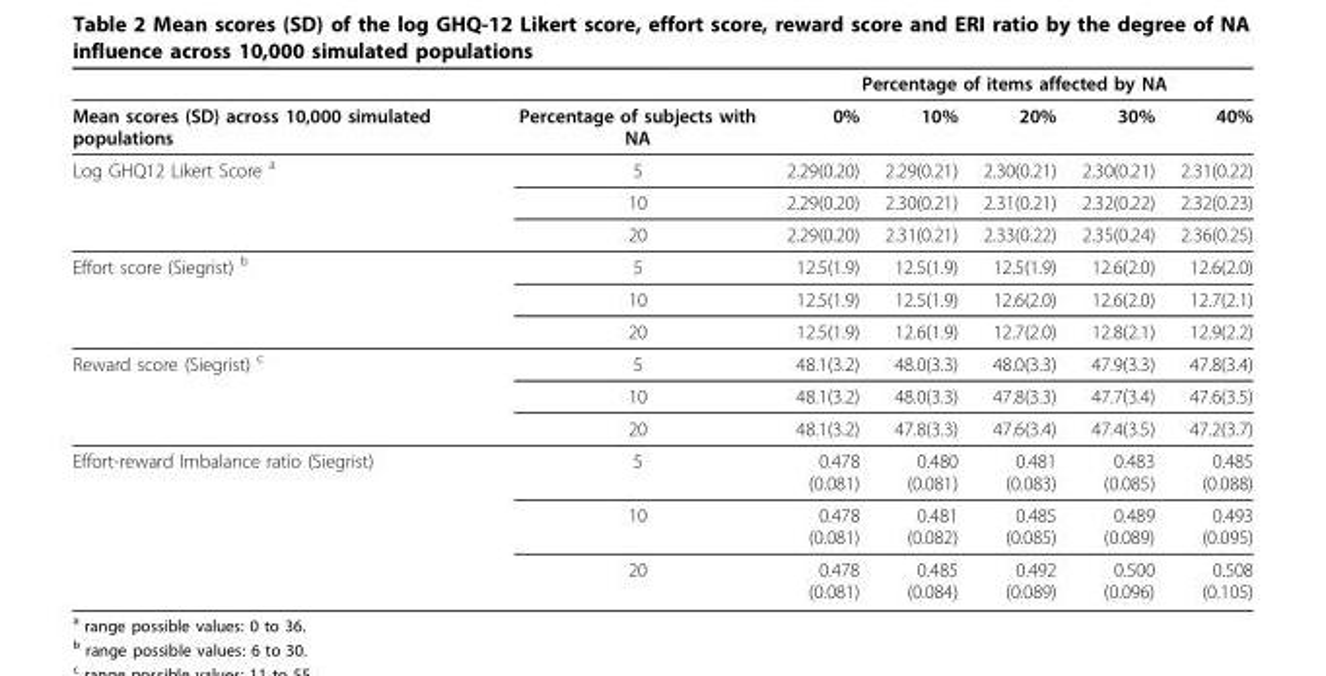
<table><thead><tr><td rowspan="2">Mean scores (SD) across 10,000 simulated populations</td><td rowspan="2">Percentage of subjects with NA</td><td colspan="5">Percentage of items affected by NA</td></tr><tr><td>0%</td><td>10%</td><td>20%</td><td>30%</td><td>40%</td></tr></thead><tbody><tr><td rowspan="3">Log GHQ12 Likert Score <sup>a</sup></td><td>5</td><td>2.29(0.20)</td><td>2.29(0.21)</td><td>2.30(0.21)</td><td>2.30(0.21)</td><td>2.31(0.22)</td></tr><tr><td>10</td><td>2.29(0.20)</td><td>2.30(0.21)</td><td>2.31(0.21)</td><td>2.32(0.22)</td><td>2.32(0.23)</td></tr><tr><td>20</td><td>2.29(0.20)</td><td>2.31(0.21)</td><td>2.33(0.22)</td><td>2.35(0.24)</td><td>2.36(0.25)</td></tr><tr><td rowspan="3">Effort score (Siegrist) <sup>b</sup></td><td>5</td><td>12.5(1.9)</td><td>12.5(1.9)</td><td>12.5(1.9)</td><td>12.6(2.0)</td><td>12.6(2.0)</td></tr><tr><td>10</td><td>12.5(1.9)</td><td>12.5(1.9)</td><td>12.6(2.0)</td><td>12.6(2.0)</td><td>12.7(2.1)</td></tr><tr><td>20</td><td>12.5(1.9)</td><td>12.6(1.9)</td><td>12.7(2.0)</td><td>12.8(2.1)</td><td>12.9(2.2)</td></tr><tr><td rowspan="3">Reward score (Siegrist) <sup>c</sup></td><td>5</td><td>48.1(3.2)</td><td>48.0(3.3)</td><td>48.0(3.3)</td><td>47.9(3.3)</td><td>47.8(3.4)</td></tr><tr><td>10</td><td>48.1(3.2)</td><td>48.0(3.3)</td><td>47.8(3.3)</td><td>47.7(3.4)</td><td>47.6(3.5)</td></tr><tr><td>20</td><td>48.1(3.2)</td><td>47.8(3.3)</td><td>47.6(3.4)</td><td>47.4(3.5)</td><td>47.2(3.7)</td></tr><tr><td rowspan="3">Effort-reward Imbalance ratio (Siegrist)</td><td>5</td><td>0.478 (0.081)</td><td>0.480 (0.081)</td><td>0.481 (0.083)</td><td>0.483 (0.085)</td><td>0.485 (0.088)</td></tr><tr><td>10</td><td>0.478 (0.081)</td><td>0.481 (0.082)</td><td>0.485 (0.085)</td><td>0.489 (0.089)</td><td>0.493 (0.095)</td></tr><tr><td>20</td><td>0.478 (0.081)</td><td>0.485 (0.084)</td><td>0.492 (0.089)</td><td>0.500 (0.096)</td><td>0.508 (0.105)</td></tr></tbody></table>